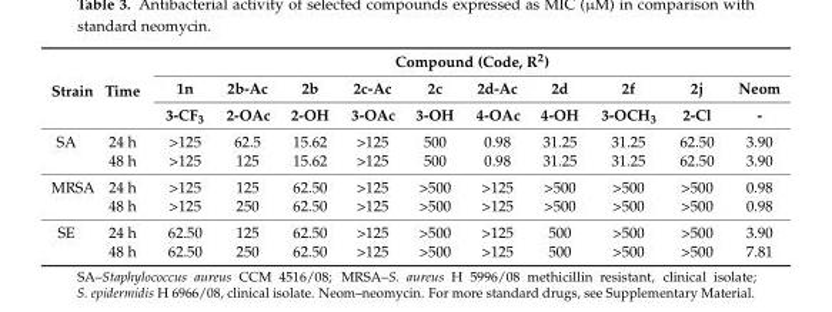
<table><thead><tr><td rowspan="3">Strain</td><td rowspan="3">Time</td><td colspan="10">Compound (Code, R2)</td></tr><tr><td rowspan="2">1n 3-CF3</td><td rowspan="2">2b-Ac 2-OAc</td><td rowspan="2">2b 2-OH</td><td rowspan="2">2c-Ac 3-OAc</td><td rowspan="2">2c 3-OH</td><td rowspan="2">2d-Ac 4-OAc</td><td rowspan="2">2d 4-OH</td><td rowspan="2">2f 3-OCH3</td><td rowspan="2">2j 2-Cl</td><td rowspan="2">Neom -</td></tr><tr></tr></thead><tbody><tr><td rowspan="2">SA</td><td>24 h</td><td>&gt;125</td><td>62.5</td><td>15.62</td><td>&gt;125</td><td>500</td><td>0.98</td><td>31.25</td><td>31.25</td><td>62.50</td><td>3.90</td></tr><tr><td>48 h</td><td>&gt;125</td><td>125</td><td>15.62</td><td>&gt;125</td><td>500</td><td>0.98</td><td>31.25</td><td>31.25</td><td>62.50</td><td>3.90</td></tr><tr><td rowspan="2">MRSA</td><td>24 h</td><td>&gt;125</td><td>125</td><td>62.50</td><td>&gt;125</td><td>&gt;500</td><td>&gt;125</td><td>&gt;500</td><td>&gt;500</td><td>&gt;500</td><td>0.98</td></tr><tr><td>48 h</td><td>&gt;125</td><td>250</td><td>62.50</td><td>&gt;125</td><td>&gt;500</td><td>&gt;125</td><td>&gt;500</td><td>&gt;500</td><td>&gt;500</td><td>0.98</td></tr><tr><td rowspan="2">SE</td><td>24 h</td><td>62.50</td><td>125</td><td>62.50</td><td>&gt;125</td><td>&gt;500</td><td>&gt;125</td><td>500</td><td>&gt;500</td><td>&gt;500</td><td>3.90</td></tr><tr><td>48 h</td><td>62.50</td><td>250</td><td>62.50</td><td>&gt;125</td><td>&gt;500</td><td>&gt;125</td><td>500</td><td>&gt;500</td><td>&gt;500</td><td>7.81</td></tr></tbody></table>